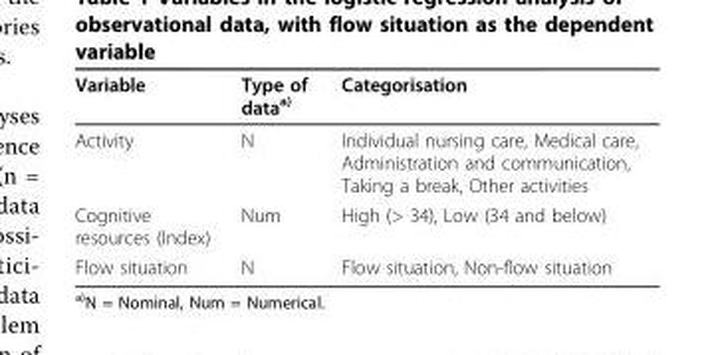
<table><thead><tr><td>Variable</td><td>Type of data<sup>a)</sup></td><td>Categorisation</td></tr></thead><tbody><tr><td>Activity</td><td>N</td><td>Individual nursing care, Medical care, Administration and communication, Taking a break, Other activities</td></tr><tr><td>Cognitive resources (Index)</td><td>Num</td><td>High (&gt; 34), Low (34 and below)</td></tr><tr><td>Flow situation</td><td>N</td><td>Flow situation, Non-flow situation</td></tr></tbody></table>